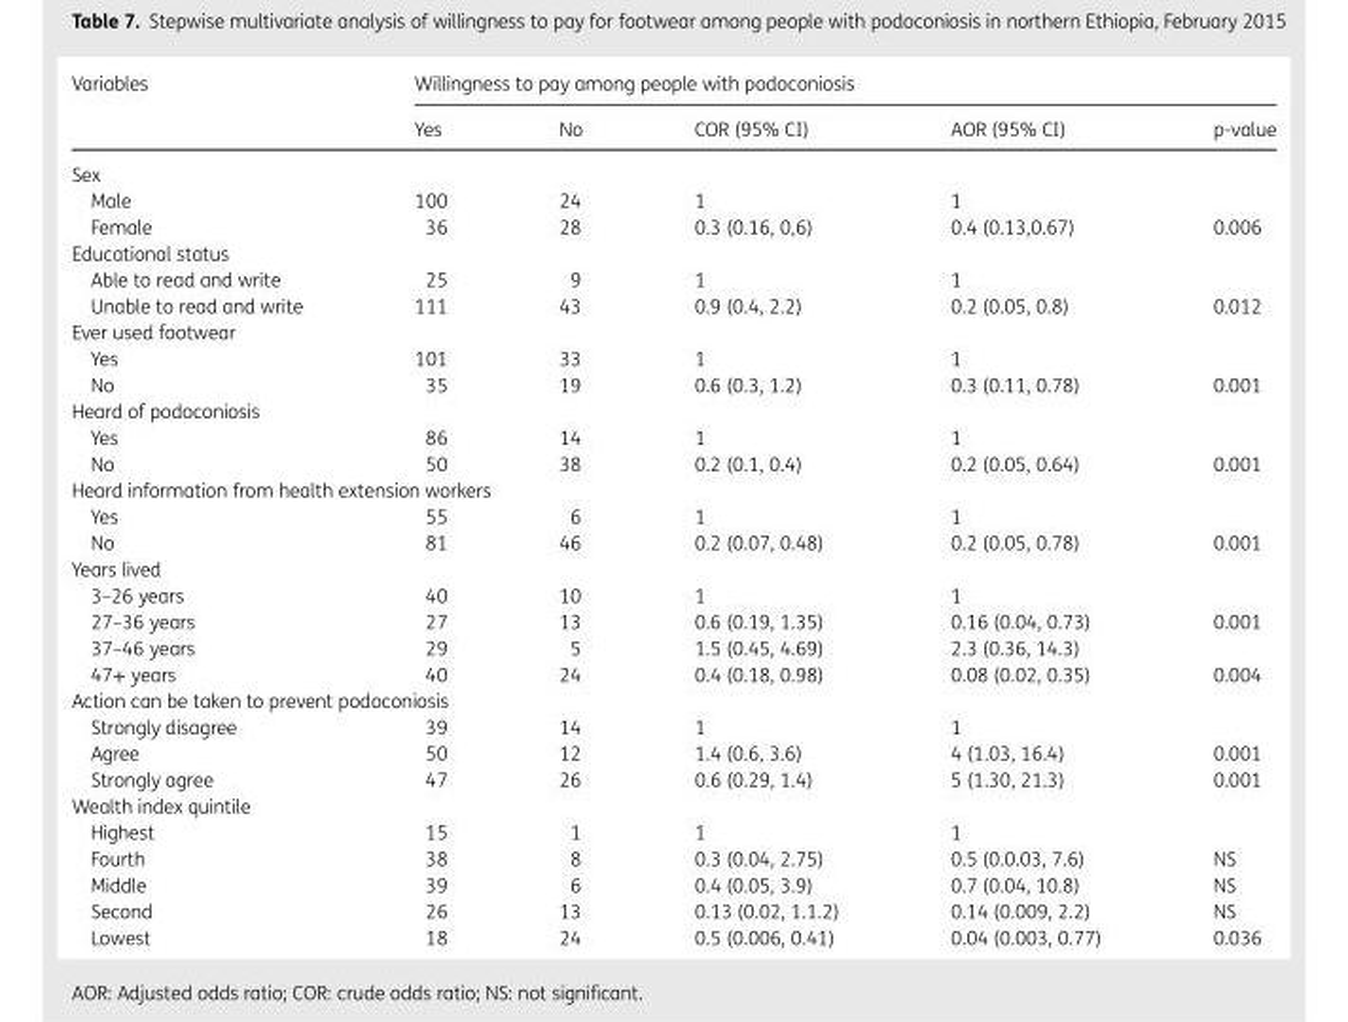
<table><thead><tr><td rowspan="2">Variables</td><td colspan="5">Willingness to pay among people with podoconiosis</td></tr><tr><td>Yes</td><td>No</td><td>COR (95% CI)</td><td>AOR (95% CI)</td><td>p-value</td></tr></thead><tbody><tr><td colspan="6">Sex</td></tr><tr><td>Male</td><td>100</td><td>24</td><td>1</td><td>1</td><td></td></tr><tr><td>Female</td><td>36</td><td>28</td><td>0.3 (0.16, 0,6)</td><td>0.4 (0.13,0.67)</td><td>0.006</td></tr><tr><td colspan="6">Educational status</td></tr><tr><td>Able to read and write</td><td>25</td><td>9</td><td>1</td><td>1</td><td></td></tr><tr><td>Unable to read and write</td><td>111</td><td>43</td><td>0.9 (0.4, 2.2)</td><td>0.2 (0.05, 0.8)</td><td>0.012</td></tr><tr><td colspan="6">Ever used footwear</td></tr><tr><td>Yes</td><td>101</td><td>33</td><td>1</td><td>1</td><td></td></tr><tr><td>No</td><td>35</td><td>19</td><td>0.6 (0.3, 1.2)</td><td>0.3 (0.11, 0.78)</td><td>0.001</td></tr><tr><td colspan="6">Heard of podoconiosis</td></tr><tr><td>Yes</td><td>86</td><td>14</td><td>1</td><td>1</td><td></td></tr><tr><td>No</td><td>50</td><td>38</td><td>0.2 (0.1, 0.4)</td><td>0.2 (0.05, 0.64)</td><td>0.001</td></tr><tr><td colspan="6">Heard information from health extension workers</td></tr><tr><td>Yes</td><td>55</td><td>6</td><td>1</td><td>1</td><td></td></tr><tr><td>No</td><td>81</td><td>46</td><td>0.2 (0.07, 0.48)</td><td>0.2 (0.05, 0.78)</td><td>0.001</td></tr><tr><td colspan="6">Years lived</td></tr><tr><td>3–26 years</td><td>40</td><td>10</td><td>1</td><td>1</td><td></td></tr><tr><td>27–36 years</td><td>27</td><td>13</td><td>0.6 (0.19, 1.35)</td><td>0.16 (0.04, 0.73)</td><td>0.001</td></tr><tr><td>37–46 years</td><td>29</td><td>5</td><td>1.5 (0.45, 4.69)</td><td>2.3 (0.36, 14.3)</td><td></td></tr><tr><td>47+ years</td><td>40</td><td>24</td><td>0.4 (0.18, 0.98)</td><td>0.08 (0.02, 0.35)</td><td>0.004</td></tr><tr><td colspan="6">Action can be taken to prevent podoconiosis</td></tr><tr><td>Strongly disagree</td><td>39</td><td>14</td><td>1</td><td>1</td><td></td></tr><tr><td>Agree</td><td>50</td><td>12</td><td>1.4 (0.6, 3.6)</td><td>4 (1.03, 16.4)</td><td>0.001</td></tr><tr><td>Strongly agree</td><td>47</td><td>26</td><td>0.6 (0.29, 1.4)</td><td>5 (1.30, 21.3)</td><td>0.001</td></tr><tr><td colspan="6">Wealth index quintile</td></tr><tr><td>Highest</td><td>15</td><td>1</td><td>1</td><td>1</td><td></td></tr><tr><td>Fourth</td><td>38</td><td>8</td><td>0.3 (0.04, 2.75)</td><td>0.5 (0.0.03, 7.6)</td><td>NS</td></tr><tr><td>Middle</td><td>39</td><td>6</td><td>0.4 (0.05, 3.9)</td><td>0.7 (0.04, 10.8)</td><td>NS</td></tr><tr><td>Second</td><td>26</td><td>13</td><td>0.13 (0.02, 1.1.2)</td><td>0.14 (0.009, 2.2)</td><td>NS</td></tr><tr><td>Lowest</td><td>18</td><td>24</td><td>0.5 (0.006, 0.41)</td><td>0.04 (0.003, 0.77)</td><td>0.036</td></tr></tbody></table>